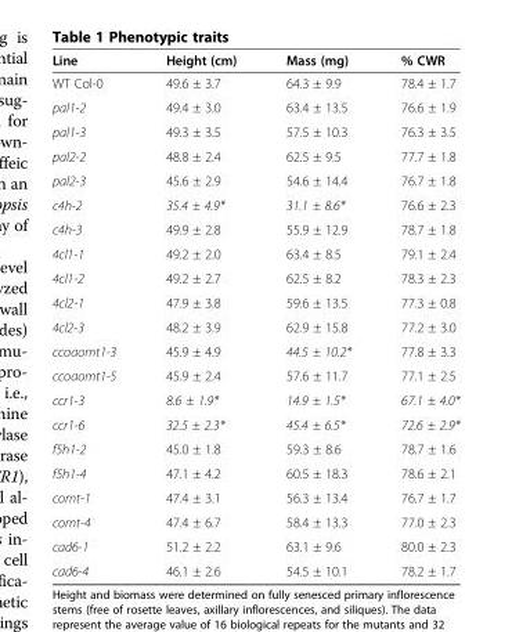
<table><thead><tr><td>Line</td><td>Height (cm)</td><td>Mass (mg)</td><td>% CWR</td></tr></thead><tbody><tr><td>WT Col-0</td><td>49.6 ± 3.7</td><td>64.3 ± 9.9</td><td>78.4 ± 1.7</td></tr><tr><td>pal1-2</td><td>49.4 ± 3.0</td><td>63.4 ± 13.5</td><td>76.6 ± 1.9</td></tr><tr><td>pal1-3</td><td>49.3 ± 3.5</td><td>57.5 ± 10.3</td><td>76.3 ± 3.5</td></tr><tr><td>pal2-2</td><td>48.8 ± 2.4</td><td>62.5 ± 9.5</td><td>77.7 ± 1.8</td></tr><tr><td>pal2-3</td><td>45.6 ± 2.9</td><td>54.6 ± 14.4</td><td>76.7 ± 1.8</td></tr><tr><td>c4h-2</td><td>35.4 ± 4.9*</td><td>31.1 ± 8.6*</td><td>76.6 ± 2.3</td></tr><tr><td>c4h-3</td><td>49.9 ± 2.8</td><td>55.9 ± 12.9</td><td>78.7 ± 1.8</td></tr><tr><td>4cl1-1</td><td>49.2 ± 2.0</td><td>63.4 ± 8.5</td><td>79.1 ± 2.4</td></tr><tr><td>4cl1-2</td><td>49.2 ± 2.7</td><td>62.5 ± 8.2</td><td>78.3 ± 2.3</td></tr><tr><td>4cl2-1</td><td>47.9 ± 3.8</td><td>59.6 ± 13.5</td><td>77.3 ± 0.8</td></tr><tr><td>4cl2-3</td><td>48.2 ± 3.9</td><td>62.9 ± 15.8</td><td>77.2 ± 3.0</td></tr><tr><td>ccoaomt1-3</td><td>45.9 ± 4.9</td><td>44.5 ± 10.2*</td><td>77.8 ± 3.3</td></tr><tr><td>ccoaomt1-5</td><td>45.9 ± 2.4</td><td>57.6 ± 11.7</td><td>77.1 ± 2.5</td></tr><tr><td>ccr1-3</td><td>8.6 ± 1.9*</td><td>14.9 ± 1.5*</td><td>67.1 ± 4.0*</td></tr><tr><td>ccr1-6</td><td>32.5 ± 2.3*</td><td>45.4 ± 6.5*</td><td>72.6 ± 2.9*</td></tr><tr><td>f5h1-2</td><td>45.0 ± 1.8</td><td>59.3 ± 8.6</td><td>78.7 ± 1.6</td></tr><tr><td>f5h1-4</td><td>47.1 ± 4.2</td><td>60.5 ± 18.3</td><td>78.6 ± 2.1</td></tr><tr><td>comt-1</td><td>47.4 ± 3.1</td><td>56.3 ± 13.4</td><td>76.7 ± 1.7</td></tr><tr><td>comt-4</td><td>47.4 ± 6.7</td><td>58.4 ± 13.3</td><td>77.0 ± 2.3</td></tr><tr><td>cad6-1</td><td>51.2 ± 2.2</td><td>63.1 ± 9.6</td><td>80.0 ± 2.3</td></tr><tr><td>cad6-4</td><td>46.1 ± 2.6</td><td>54.5 ± 10.1</td><td>78.2 ± 1.7</td></tr></tbody></table>